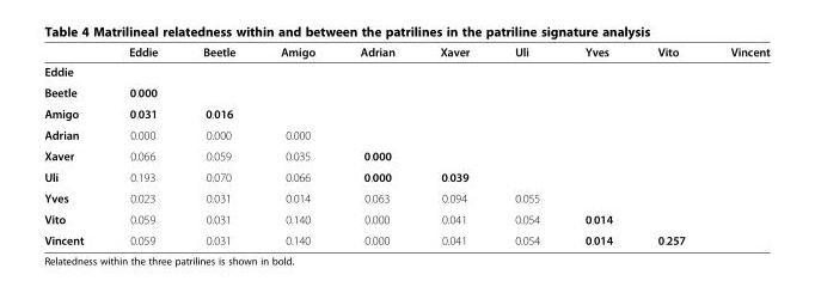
<table><thead><tr><td></td><td>Eddie</td><td>Beetle</td><td>Amigo</td><td>Adrian</td><td>Xaver</td><td>Uli</td><td>Yves</td><td>Vito</td><td>Vincent</td></tr></thead><tbody><tr><td colspan="10">Eddie</td></tr><tr><td>Beetle</td><td>0.000</td><td></td><td></td><td></td><td></td><td></td><td></td><td></td><td></td></tr><tr><td>Amigo</td><td>0.031</td><td>0.016</td><td></td><td></td><td></td><td></td><td></td><td></td><td></td></tr><tr><td>Adrian</td><td>0.000</td><td>0.000</td><td>0.000</td><td></td><td></td><td></td><td></td><td></td><td></td></tr><tr><td>Xaver</td><td>0.066</td><td>0.059</td><td>0.035</td><td>0.000</td><td></td><td></td><td></td><td></td><td></td></tr><tr><td>Uli</td><td>0.193</td><td>0.070</td><td>0.066</td><td>0.000</td><td>0.039</td><td></td><td></td><td></td><td></td></tr><tr><td>Yves</td><td>0.023</td><td>0.031</td><td>0.014</td><td>0.063</td><td>0.094</td><td>0.055</td><td></td><td></td><td></td></tr><tr><td>Vito</td><td>0.059</td><td>0.031</td><td>0.140</td><td>0.000</td><td>0.041</td><td>0.054</td><td>0.014</td><td></td><td></td></tr><tr><td>Vincent</td><td>0.059</td><td>0.031</td><td>0.140</td><td>0.000</td><td>0.041</td><td>0.054</td><td>0.014</td><td>0.257</td><td></td></tr></tbody></table>